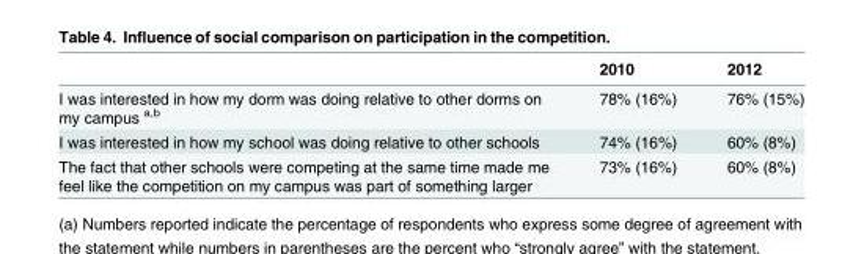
<table><thead><tr><td></td><td>2010</td><td>2012</td></tr></thead><tbody><tr><td>I was interested in how my dorm was doing relative to other dorms on my campus <sup>a,b</sup></td><td>78% (16%)</td><td>76% (15%)</td></tr><tr><td>I was interested in how my school was doing relative to other schools</td><td>74% (16%)</td><td>60% (8%)</td></tr><tr><td>The fact that other schools were competing at the same time made me feel like the competition on my campus was part of something larger</td><td>73% (16%)</td><td>60% (8%)</td></tr></tbody></table>